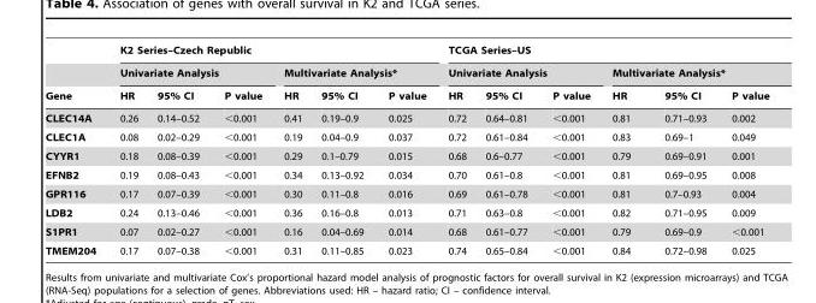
<table><thead><tr><td rowspan="3">Gene</td><td colspan="6">K2 Series–Czech Republic</td><td colspan="6">TCGA Series–US</td></tr><tr><td colspan="3">Univariate Analysis</td><td colspan="3">Multivariate Analysis*</td><td colspan="3">Univariate Analysis</td><td colspan="3">Multivariate Analysis*</td></tr><tr><td>HR</td><td>95% CI</td><td>P value</td><td>HR</td><td>95% CI</td><td>P value</td><td>HR</td><td>95% CI</td><td>P value</td><td>HR</td><td>95% CI</td><td>P value</td></tr></thead><tbody><tr><td>CLEC14A</td><td>0.26</td><td>0.14–0.52</td><td>&lt;0.001</td><td>0.41</td><td>0.19–0.9</td><td>0.025</td><td>0.72</td><td>0.64–0.81</td><td>&lt;0.001</td><td>0.81</td><td>0.71–0.93</td><td>0.002</td></tr><tr><td>CLEC1A</td><td>0.08</td><td>0.02–0.29</td><td>&lt;0.001</td><td>0.19</td><td>0.04–0.9</td><td>0.037</td><td>0.72</td><td>0.61–0.84</td><td>&lt;0.001</td><td>0.83</td><td>0.69–1</td><td>0.049</td></tr><tr><td>CYYR1</td><td>0.18</td><td>0.08–0.39</td><td>&lt;0.001</td><td>0.29</td><td>0.1–0.79</td><td>0.015</td><td>0.68</td><td>0.6–0.77</td><td>&lt;0.001</td><td>0.79</td><td>0.69–0.91</td><td>0.001</td></tr><tr><td>EFNB2</td><td>0.19</td><td>0.08–0.43</td><td>&lt;0.001</td><td>0.34</td><td>0.13–0.92</td><td>0.034</td><td>0.70</td><td>0.61–0.8</td><td>&lt;0.001</td><td>0.81</td><td>0.69–0.95</td><td>0.008</td></tr><tr><td>GPR116</td><td>0.17</td><td>0.07–0.39</td><td>&lt;0.001</td><td>0.30</td><td>0.11–0.8</td><td>0.016</td><td>0.69</td><td>0.61–0.78</td><td>&lt;0.001</td><td>0.81</td><td>0.7–0.93</td><td>0.004</td></tr><tr><td>LDB2</td><td>0.24</td><td>0.13–0.46</td><td>&lt;0.001</td><td>0.36</td><td>0.16–0.8</td><td>0.013</td><td>0.71</td><td>0.63–0.8</td><td>&lt;0.001</td><td>0.82</td><td>0.71–0.95</td><td>0.009</td></tr><tr><td>S1PR1</td><td>0.07</td><td>0.02–0.27</td><td>&lt;0.001</td><td>0.16</td><td>0.04–0.69</td><td>0.014</td><td>0.68</td><td>0.61–0.77</td><td>&lt;0.001</td><td>0.79</td><td>0.69–0.9</td><td>&lt;0.001</td></tr><tr><td>TMEM204</td><td>0.17</td><td>0.07–0.38</td><td>&lt;0.001</td><td>0.31</td><td>0.11–0.85</td><td>0.023</td><td>0.74</td><td>0.65–0.84</td><td>&lt;0.001</td><td>0.84</td><td>0.72–0.98</td><td>0.025</td></tr></tbody></table>